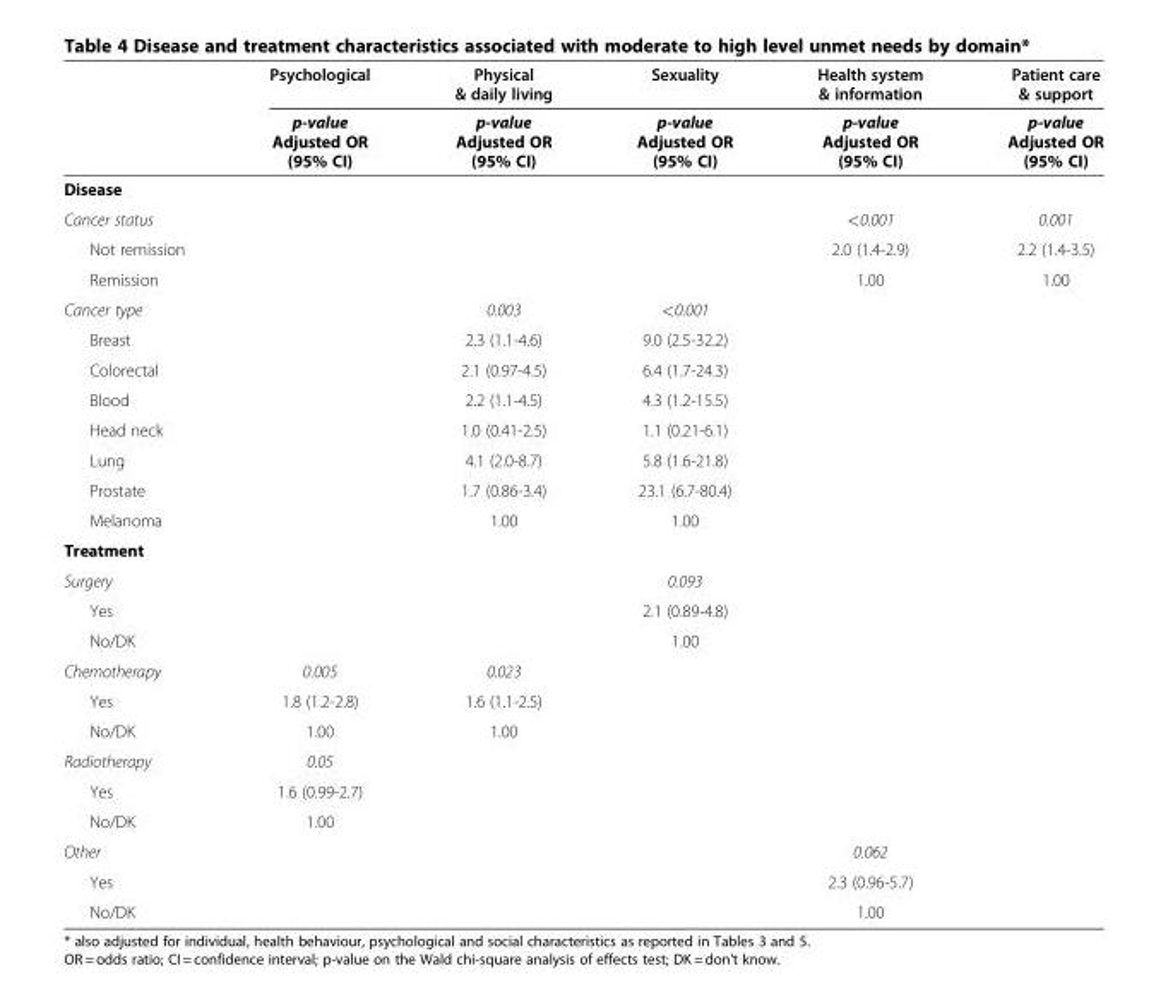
<table><thead><tr><td rowspan="2"></td><td rowspan="2">Psychological p-value Adjusted OR (95% CI)</td><td rowspan="2">Physical &amp; daily living p-value Adjusted OR (95% CI)</td><td rowspan="2">Sexuality p-value Adjusted OR (95% CI)</td><td rowspan="2">Health system &amp; information p-value Adjusted OR (95% CI)</td><td rowspan="2">Patient care &amp; support p-value Adjusted OR (95% CI)</td></tr><tr></tr></thead><tbody><tr><td colspan="6">Disease</td></tr><tr><td>Cancer status</td><td></td><td></td><td></td><td>&lt;0.001</td><td>0.001</td></tr><tr><td>Not remission</td><td></td><td></td><td></td><td>2.0 (1.4-2.9)</td><td>2.2 (1.4-3.5)</td></tr><tr><td>Remission</td><td></td><td></td><td></td><td>1.00</td><td>1.00</td></tr><tr><td>Cancer type</td><td></td><td>0.003</td><td>&lt;0.001</td><td></td><td></td></tr><tr><td>Breast</td><td></td><td>2.3 (1.1-4.6)</td><td>9.0 (2.5-32.2)</td><td></td><td></td></tr><tr><td>Colorectal</td><td></td><td>2.1 (0.97-4.5)</td><td>6.4 (1.7-24.3)</td><td></td><td></td></tr><tr><td>Blood</td><td></td><td>2.2 (1.1-4.5)</td><td>4.3 (1.2-15.5)</td><td></td><td></td></tr><tr><td>Head neck</td><td></td><td>1.0 (0.41-2.5)</td><td>1.1 (0.21-6.1)</td><td></td><td></td></tr><tr><td>Lung</td><td></td><td>4.1 (2.0-8.7)</td><td>5.8 (1.6-21.8)</td><td></td><td></td></tr><tr><td>Prostate</td><td></td><td>1.7 (0.86-3.4)</td><td>23.1 (6.7-80.4)</td><td></td><td></td></tr><tr><td>Melanoma</td><td></td><td>1.00</td><td>1.00</td><td></td><td></td></tr><tr><td colspan="6">Treatment</td></tr><tr><td>Surgery</td><td></td><td></td><td>0.093</td><td></td><td></td></tr><tr><td>Yes</td><td></td><td></td><td>2.1 (0.89-4.8)</td><td></td><td></td></tr><tr><td>No/DK</td><td></td><td></td><td>1.00</td><td></td><td></td></tr><tr><td>Chemotherapy</td><td>0.005</td><td>0.023</td><td></td><td></td><td></td></tr><tr><td>Yes</td><td>1.8 (1.2-2.8)</td><td>1.6 (1.1-2.5)</td><td></td><td></td><td></td></tr><tr><td>No/DK</td><td>1.00</td><td>1.00</td><td></td><td></td><td></td></tr><tr><td>Radiotherapy</td><td>0.05</td><td></td><td></td><td></td><td></td></tr><tr><td>Yes</td><td>1.6 (0.99-2.7)</td><td></td><td></td><td></td><td></td></tr><tr><td>No/DK</td><td>1.00</td><td></td><td></td><td></td><td></td></tr><tr><td>Other</td><td></td><td></td><td></td><td>0.062</td><td></td></tr><tr><td>Yes</td><td></td><td></td><td></td><td>2.3 (0.96-5.7)</td><td></td></tr><tr><td>No/DK</td><td></td><td></td><td></td><td>1.00</td><td></td></tr></tbody></table>